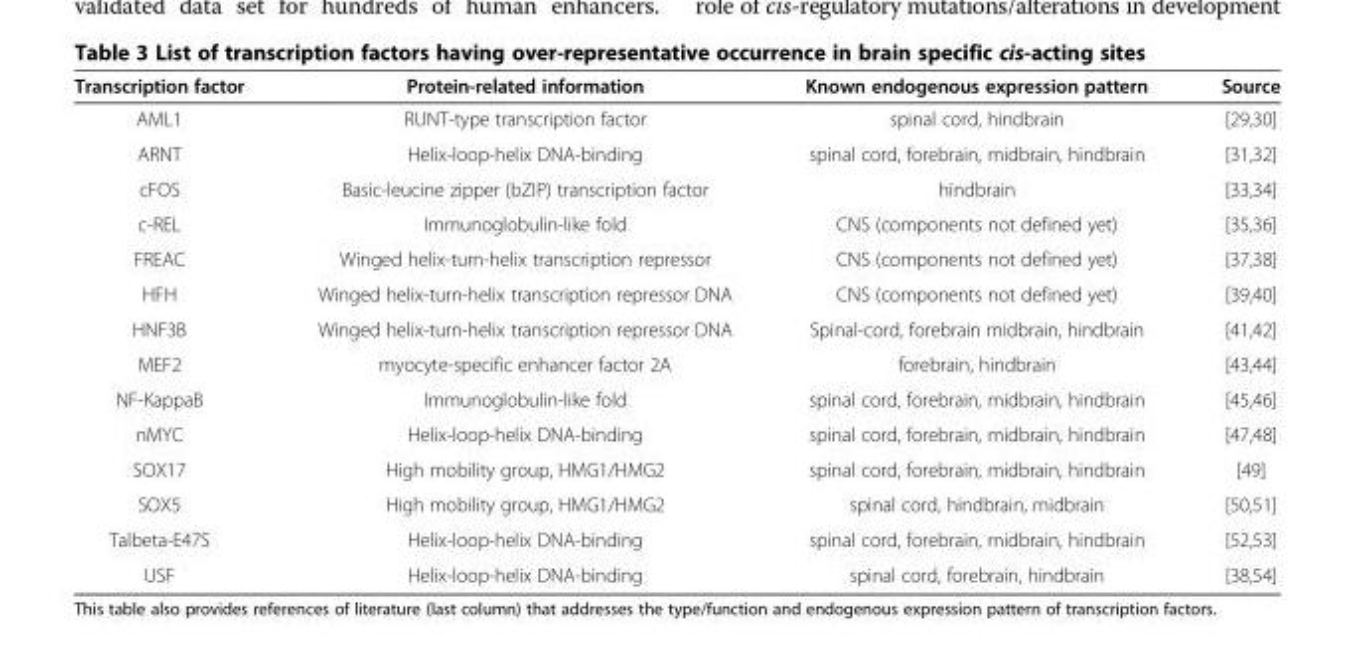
<table><thead><tr><td>Transcription factor</td><td>Protein-related information</td><td>Known endogenous expression pattern</td><td>Source</td></tr></thead><tbody><tr><td>AML1</td><td>RUNT-type transcription factor</td><td>spinal cord, hindbrain</td><td>[29,30]</td></tr><tr><td>ARNT</td><td>Helix-loop-helix DNA-binding</td><td>spinal cord, forebrain, midbrain, hindbrain</td><td>[31,32]</td></tr><tr><td>cFOS</td><td>Basic-leucine zipper (bZIP) transcription factor</td><td>hindbrain</td><td>[33,34]</td></tr><tr><td>c-REL</td><td>Immunoglobulin-like fold</td><td>CNS (components not defined yet)</td><td>[35,36]</td></tr><tr><td>FREAC</td><td>Winged helix-turn-helix transcription repressor</td><td>CNS (components not defined yet)</td><td>[37,38]</td></tr><tr><td>HFH</td><td>Winged helix-turn-helix transcription repressor DNA</td><td>CNS (components not defined yet)</td><td>[39,40]</td></tr><tr><td>HNF3B</td><td>Winged helix-turn-helix transcription repressor DNA</td><td>Spinal-cord, forebrain midbrain, hindbrain</td><td>[41,42]</td></tr><tr><td>MEF2</td><td>myocyte-specific enhancer factor 2A</td><td>forebrain, hindbrain</td><td>[43,44]</td></tr><tr><td>NF-KappaB</td><td>Immunoglobulin-like fold</td><td>spinal cord, forebrain, midbrain, hindbrain</td><td>[45,46]</td></tr><tr><td>nMYC</td><td>Helix-loop-helix DNA-binding</td><td>spinal cord, forebrain, midbrain, hindbrain</td><td>[47,48]</td></tr><tr><td>SOX17</td><td>High mobility group, HMG1/HMG2</td><td>spinal cord, forebrain, midbrain, hindbrain</td><td>[49]</td></tr><tr><td>SOX5</td><td>High mobility group, HMG1/HMG2</td><td>spinal cord, hindbrain, midbrain</td><td>[50,51]</td></tr><tr><td>Talbeta-E47S</td><td>Helix-loop-helix DNA-binding</td><td>spinal cord, forebrain, midbrain, hindbrain</td><td>[52,53]</td></tr><tr><td>USF</td><td>Helix-loop-helix DNA-binding</td><td>spinal cord, forebrain, hindbrain</td><td>[38,54]</td></tr></tbody></table>